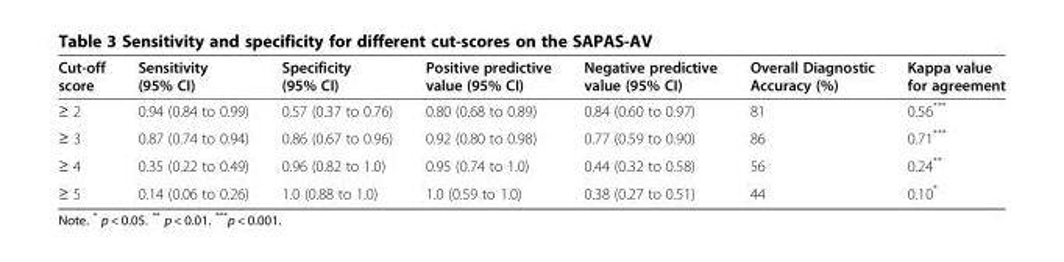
<table><thead><tr><td>Cut-off score</td><td>Sensitivity (95% CI)</td><td>Specificity (95% CI)</td><td>Positive predictive value (95% CI)</td><td>Negative predictive value (95% CI)</td><td>Overall Diagnostic Accuracy (%)</td><td>Kappa value for agreement</td></tr></thead><tbody><tr><td>≥ 2</td><td>0.94 (0.84 to 0.99)</td><td>0.57 (0.37 to 0.76)</td><td>0.80 (0.68 to 0.89)</td><td>0.84 (0.60 to 0.97)</td><td>81</td><td>0.56***</td></tr><tr><td>≥ 3</td><td>0.87 (0.74 to 0.94)</td><td>0.86 (0.67 to 0.96)</td><td>0.92 (0.80 to 0.98)</td><td>0.77 (0.59 to 0.90)</td><td>86</td><td>0.71***</td></tr><tr><td>≥ 4</td><td>0.35 (0.22 to 0.49)</td><td>0.96 (0.82 to 1.0)</td><td>0.95 (0.74 to 1.0)</td><td>0.44 (0.32 to 0.58)</td><td>56</td><td>0.24**</td></tr><tr><td>≥ 5</td><td>0.14 (0.06 to 0.26)</td><td>1.0 (0.88 to 1.0)</td><td>1.0 (0.59 to 1.0)</td><td>0.38 (0.27 to 0.51)</td><td>44</td><td>0.10*</td></tr></tbody></table>